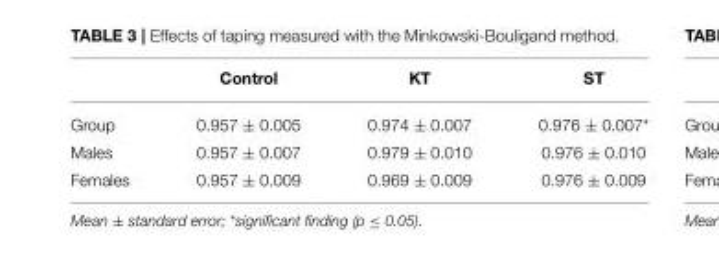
<table><thead><tr><td></td><td>Control</td><td>KT</td><td>ST</td></tr></thead><tbody><tr><td>Group</td><td>0.957 ± 0.005</td><td>0.974 ± 0.007</td><td>0.976 ± 0.007*</td></tr><tr><td>Males</td><td>0.957 ± 0.007</td><td>0.979 ± 0.010</td><td>0.976 ± 0.010</td></tr><tr><td>Females</td><td>0.957 ± 0.009</td><td>0.969 ± 0.009</td><td>0.976 ± 0.009</td></tr></tbody></table>